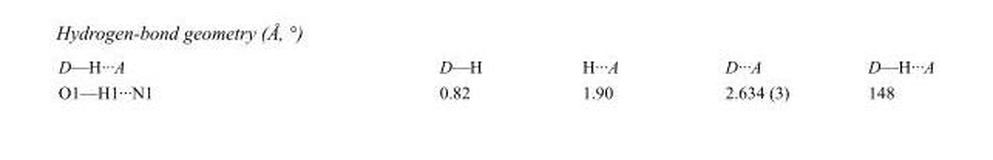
<table><tbody><tr><td>D—H···A</td><td>D—H</td><td>H···A</td><td>D···A</td><td>D—H···A</td></tr><tr><td>O1—H1···N1</td><td>0.82</td><td>1.90</td><td>2.634 (3)</td><td>148</td></tr></tbody></table>